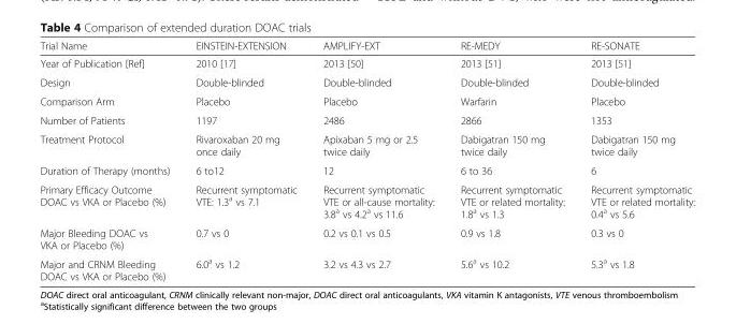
<table><thead><tr><td>Trial Name</td><td>EINSTEIN-EXTENSION</td><td>AMPLIFY-EXT</td><td>RE-MEDY</td><td>RE-SONATE</td></tr></thead><tbody><tr><td>Year of Publication [Ref]</td><td>2010 [17]</td><td>2013 [50]</td><td>2013 [51]</td><td>2013 [51]</td></tr><tr><td>Design</td><td>Double-blinded</td><td>Double-blinded</td><td>Double-blinded</td><td>Double-blinded</td></tr><tr><td>Comparison Arm</td><td>Placebo</td><td>Placebo</td><td>Warfarin</td><td>Placebo</td></tr><tr><td>Number of Patients</td><td>1197</td><td>2486</td><td>2866</td><td>1353</td></tr><tr><td>Treatment Protocol</td><td>Rivaroxaban 20 mg once daily</td><td>Apixaban 5 mg or 2.5 twice daily</td><td>Dabigatran 150 mg twice daily</td><td>Dabigatran 150 mg twice daily</td></tr><tr><td>Duration of Therapy (months)</td><td>6 to12</td><td>12</td><td>6 to 36</td><td>6</td></tr><tr><td>Primary Efficacy Outcome DOAC vs VKA or Placebo (%)</td><td>Recurrent symptomatic VTE: 1.3<sup>a</sup> vs 7.1</td><td>Recurrent symptomatic VTE or all-cause mortality: 3.8<sup>a</sup> vs 4.2<sup>a</sup> vs 11.6</td><td>Recurrent symptomatic VTE or related mortality: 1.8<sup>a</sup> vs 1.3</td><td>Recurrent symptomatic VTE or related mortality: 0.4<sup>a</sup> vs 5.6</td></tr><tr><td>Major Bleeding DOAC vs VKA or Placebo (%)</td><td>0.7 vs 0</td><td>0.2 vs 0.1 vs 0.5</td><td>0.9 vs 1.8</td><td>0.3 vs 0</td></tr><tr><td>Major and CRNM Bleeding DOAC vs VKA or Placebo (%)</td><td>6.0<sup>a</sup> vs 1.2</td><td>3.2 vs 4.3 vs 2.7</td><td>5.6<sup>a</sup> vs 10.2</td><td>5.3<sup>a</sup> vs 1.8</td></tr></tbody></table>